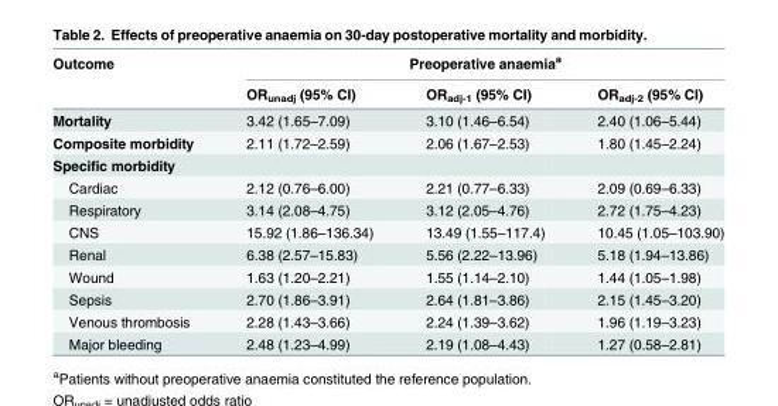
<table><thead><tr><td rowspan="2">Outcome</td><td colspan="3">Preoperative anaemia<sup>a</sup></td></tr><tr><td>OR<sub>unadj</sub> (95% CI)</td><td>OR<sub>adj-1</sub> (95% CI)</td><td>OR<sub>adj-2</sub> (95% CI)</td></tr></thead><tbody><tr><td>Mortality</td><td>3.42 (1.65–7.09)</td><td>3.10 (1.46–6.54)</td><td>2.40 (1.06–5.44)</td></tr><tr><td>Composite morbidity</td><td>2.11 (1.72–2.59)</td><td>2.06 (1.67–2.53)</td><td>1.80 (1.45–2.24)</td></tr><tr><td colspan="4">Specific morbidity</td></tr><tr><td>Cardiac</td><td>2.12 (0.76–6.00)</td><td>2.21 (0.77–6.33)</td><td>2.09 (0.69–6.33)</td></tr><tr><td>Respiratory</td><td>3.14 (2.08–4.75)</td><td>3.12 (2.05–4.76)</td><td>2.72 (1.75–4.23)</td></tr><tr><td>CNS</td><td>15.92 (1.86–136.34)</td><td>13.49 (1.55–117.4)</td><td>10.45 (1.05–103.90)</td></tr><tr><td>Renal</td><td>6.38 (2.57–15.83)</td><td>5.56 (2.22–13.96)</td><td>5.18 (1.94–13.86)</td></tr><tr><td>Wound</td><td>1.63 (1.20–2.21)</td><td>1.55 (1.14–2.10)</td><td>1.44 (1.05–1.98)</td></tr><tr><td>Sepsis</td><td>2.70 (1.86–3.91)</td><td>2.64 (1.81–3.86)</td><td>2.15 (1.45–3.20)</td></tr><tr><td>Venous thrombosis</td><td>2.28 (1.43–3.66)</td><td>2.24 (1.39–3.62)</td><td>1.96 (1.19–3.23)</td></tr><tr><td>Major bleeding</td><td>2.48 (1.23–4.99)</td><td>2.19 (1.08–4.43)</td><td>1.27 (0.58–2.81)</td></tr></tbody></table>